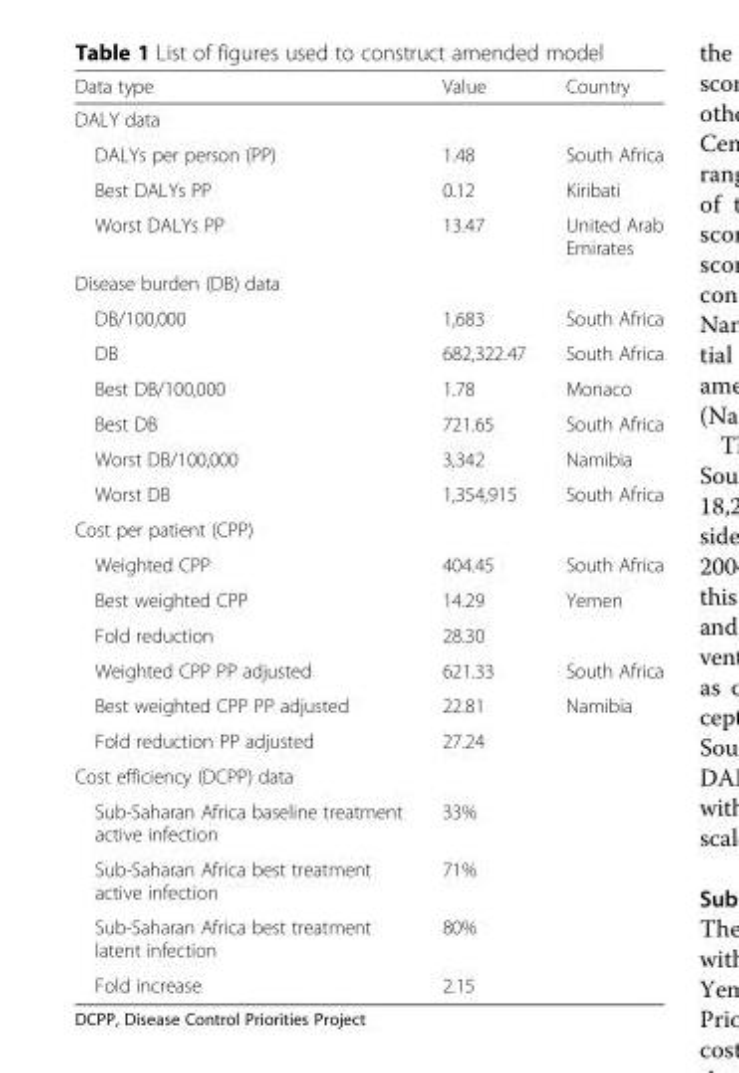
<table><thead><tr><td>Data type</td><td>Value</td><td>Country</td></tr></thead><tbody><tr><td colspan="3">DALY data</td></tr><tr><td>DALYs per person (PP)</td><td>1.48</td><td>South Africa</td></tr><tr><td>Best DALYs PP</td><td>0.12</td><td>Kiribati</td></tr><tr><td>Worst DALYs PP</td><td>13.47</td><td>United Arab Emirates</td></tr><tr><td colspan="3">Disease burden (DB) data</td></tr><tr><td>DB/100,000</td><td>1,683</td><td>South Africa</td></tr><tr><td>DB</td><td>682,322.47</td><td>South Africa</td></tr><tr><td>Best DB/100,000</td><td>1.78</td><td>Monaco</td></tr><tr><td>Best DB</td><td>721.65</td><td>South Africa</td></tr><tr><td>Worst DB/100,000</td><td>3,342</td><td>Namibia</td></tr><tr><td>Worst DB</td><td>1,354,915</td><td>South Africa</td></tr><tr><td colspan="3">Cost per patient (CPP)</td></tr><tr><td>Weighted CPP</td><td>404.45</td><td>South Africa</td></tr><tr><td>Best weighted CPP</td><td>14.29</td><td>Yemen</td></tr><tr><td>Fold reduction</td><td>28.30</td><td></td></tr><tr><td>Weighted CPP PP adjusted</td><td>621.33</td><td>South Africa</td></tr><tr><td>Best weighted CPP PP adjusted</td><td>22.81</td><td>Namibia</td></tr><tr><td>Fold reduction PP adjusted</td><td>27.24</td><td></td></tr><tr><td colspan="3">Cost efficiency (DCPP) data</td></tr><tr><td>Sub-Saharan Africa baseline treatment active infection</td><td>33%</td><td></td></tr><tr><td>Sub-Saharan Africa best treatment active infection</td><td>71%</td><td></td></tr><tr><td>Sub-Saharan Africa best treatment latent infection</td><td>80%</td><td></td></tr><tr><td>Fold increase</td><td>2.15</td><td></td></tr></tbody></table>